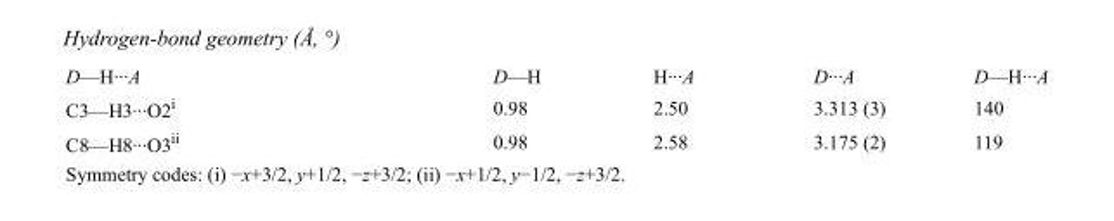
<table><tbody><tr><td>D—H···A</td><td>D—H</td><td>H···A</td><td>D···A</td><td>D—H···A</td></tr><tr><td>C3—H3···O2<sup>i</sup></td><td>0.98</td><td>2.50</td><td>3.313 (3)</td><td>140</td></tr><tr><td>C8—H8···O3<sup>ii</sup></td><td>0.98</td><td>2.58</td><td>3.175 (2)</td><td>119</td></tr></tbody></table>